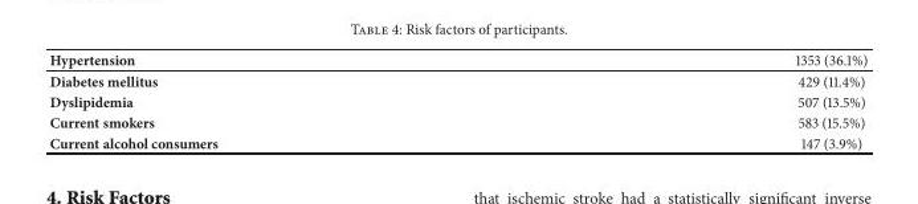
<table><thead><tr><td>Hypertension</td><td>1353 (36.1%)</td></tr></thead><tbody><tr><td>Diabetes mellitus</td><td>429 (11.4%)</td></tr><tr><td>Dyslipidemia</td><td>507 (13.5%)</td></tr><tr><td>Current smokers</td><td>583 (15.5%)</td></tr><tr><td>Current alcohol consumers</td><td>147 (3.9%)</td></tr></tbody></table>